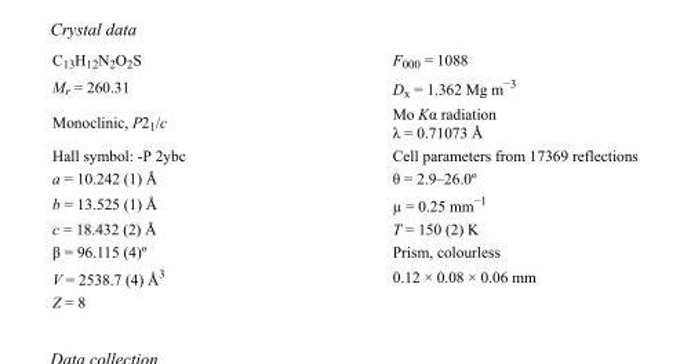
<table><tbody><tr><td>C<sub>13</sub>H<sub>12</sub>N<sub>2</sub>O<sub>2</sub>S</td><td>F<sub>000</sub> = 1088</td></tr><tr><td>M<sub>r</sub> = 260.31</td><td>D<sub>x</sub> = 1.362 Mg m<sup>−3</sup></td></tr><tr><td>Monoclinic, P2<sub>1</sub>/c</td><td>Mo Kα radiation λ = 0.71073 Å</td></tr><tr><td>Hall symbol: -P 2ybc</td><td>Cell parameters from 17369 reflections</td></tr><tr><td>a = 10.242 (1) Å</td><td>θ = 2.9–26.0º</td></tr><tr><td>b = 13.525 (1) Å</td><td>µ = 0.25 mm<sup>−1</sup></td></tr><tr><td>c = 18.432 (2) Å</td><td>T = 150 (2) K</td></tr><tr><td>β = 96.115 (4)º</td><td>Prism, colourless</td></tr><tr><td>V = 2538.7 (4) Å<sup>3</sup></td><td>0.12 × 0.08 × 0.06 mm</td></tr><tr><td>Z = 8</td><td></td></tr></tbody></table>